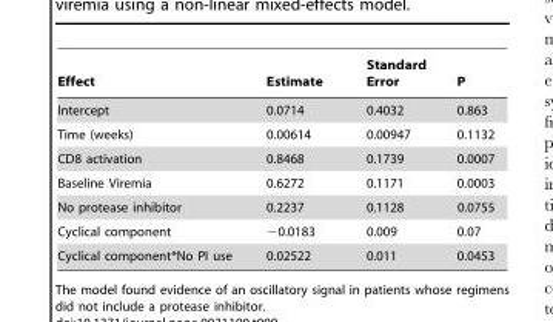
<table><thead><tr><td>Effect</td><td>Estimate</td><td>Standard Error</td><td>P</td></tr></thead><tbody><tr><td>Intercept</td><td>0.0714</td><td>0.4032</td><td>0.863</td></tr><tr><td>Time (weeks)</td><td>0.00614</td><td>0.00947</td><td>0.1132</td></tr><tr><td>CD8 activation</td><td>0.8468</td><td>0.1739</td><td>0.0007</td></tr><tr><td>Baseline Viremia</td><td>0.6272</td><td>0.1171</td><td>0.0003</td></tr><tr><td>No protease inhibitor</td><td>0.2237</td><td>0.1128</td><td>0.0755</td></tr><tr><td>Cyclical component</td><td>−0.0183</td><td>0.009</td><td>0.07</td></tr><tr><td>Cyclical component*No PI use</td><td>0.02522</td><td>0.011</td><td>0.0453</td></tr></tbody></table>